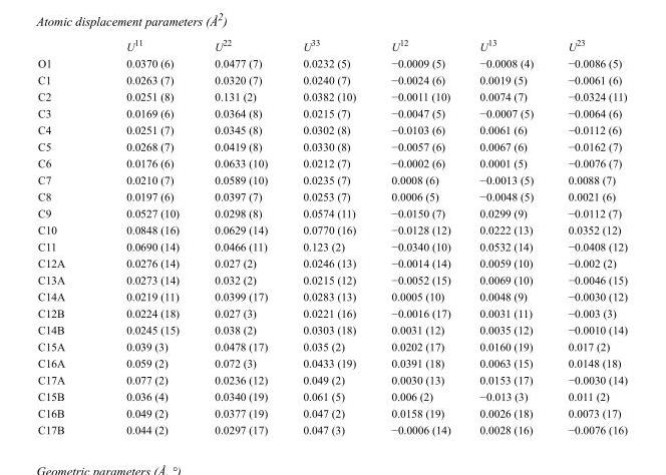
<table><thead><tr><td></td><td>U<sup>11</sup></td><td>U<sup>22</sup></td><td>U<sup>33</sup></td><td>U<sup>12</sup></td><td>U<sup>13</sup></td><td>U<sup>23</sup></td></tr></thead><tbody><tr><td>O1</td><td>0.0370 (6)</td><td>0.0477 (7)</td><td>0.0232 (5)</td><td>−0.0009 (5)</td><td>−0.0008 (4)</td><td>−0.0086 (5)</td></tr><tr><td>C1</td><td>0.0263 (7)</td><td>0.0320 (7)</td><td>0.0240 (7)</td><td>−0.0024 (6)</td><td>0.0019 (5)</td><td>−0.0061 (6)</td></tr><tr><td>C2</td><td>0.0251 (8)</td><td>0.131 (2)</td><td>0.0382 (10)</td><td>−0.0011 (10)</td><td>0.0074 (7)</td><td>−0.0324 (11)</td></tr><tr><td>C3</td><td>0.0169 (6)</td><td>0.0364 (8)</td><td>0.0215 (7)</td><td>−0.0047 (5)</td><td>−0.0007 (5)</td><td>−0.0064 (6)</td></tr><tr><td>C4</td><td>0.0251 (7)</td><td>0.0345 (8)</td><td>0.0302 (8)</td><td>−0.0103 (6)</td><td>0.0061 (6)</td><td>−0.0112 (6)</td></tr><tr><td>C5</td><td>0.0268 (7)</td><td>0.0419 (8)</td><td>0.0330 (8)</td><td>−0.0057 (6)</td><td>0.0067 (6)</td><td>−0.0162 (7)</td></tr><tr><td>C6</td><td>0.0176 (6)</td><td>0.0633 (10)</td><td>0.0212 (7)</td><td>−0.0002 (6)</td><td>0.0001 (5)</td><td>−0.0076 (7)</td></tr><tr><td>C7</td><td>0.0210 (7)</td><td>0.0589 (10)</td><td>0.0235 (7)</td><td>0.0008 (6)</td><td>−0.0013 (5)</td><td>0.0088 (7)</td></tr><tr><td>C8</td><td>0.0197 (6)</td><td>0.0397 (7)</td><td>0.0253 (7)</td><td>0.0006 (5)</td><td>−0.0048 (5)</td><td>0.0021 (6)</td></tr><tr><td>C9</td><td>0.0527 (10)</td><td>0.0298 (8)</td><td>0.0574 (11)</td><td>−0.0150 (7)</td><td>0.0299 (9)</td><td>−0.0112 (7)</td></tr><tr><td>C10</td><td>0.0848 (16)</td><td>0.0629 (14)</td><td>0.0770 (16)</td><td>−0.0128 (12)</td><td>0.0222 (13)</td><td>0.0352 (12)</td></tr><tr><td>C11</td><td>0.0690 (14)</td><td>0.0466 (11)</td><td>0.123 (2)</td><td>−0.0340 (10)</td><td>0.0532 (14)</td><td>−0.0408 (12)</td></tr><tr><td>C12A</td><td>0.0276 (14)</td><td>0.027 (2)</td><td>0.0246 (13)</td><td>−0.0014 (14)</td><td>0.0059 (10)</td><td>−0.002 (2)</td></tr><tr><td>C13A</td><td>0.0273 (14)</td><td>0.032 (2)</td><td>0.0215 (12)</td><td>−0.0052 (15)</td><td>0.0069 (10)</td><td>−0.0046 (15)</td></tr><tr><td>C14A</td><td>0.0219 (11)</td><td>0.0399 (17)</td><td>0.0283 (13)</td><td>0.0005 (10)</td><td>0.0048 (9)</td><td>−0.0030 (12)</td></tr><tr><td>C12B</td><td>0.0224 (18)</td><td>0.027 (3)</td><td>0.0221 (16)</td><td>−0.0016 (17)</td><td>0.0031 (11)</td><td>−0.003 (3)</td></tr><tr><td>C14B</td><td>0.0245 (15)</td><td>0.038 (2)</td><td>0.0303 (18)</td><td>0.0031 (12)</td><td>0.0035 (12)</td><td>−0.0010 (14)</td></tr><tr><td>C15A</td><td>0.039 (3)</td><td>0.0478 (17)</td><td>0.035 (2)</td><td>0.0202 (17)</td><td>0.0160 (19)</td><td>0.017 (2)</td></tr><tr><td>C16A</td><td>0.059 (2)</td><td>0.072 (3)</td><td>0.0433 (19)</td><td>0.0391 (18)</td><td>0.0063 (15)</td><td>0.0148 (18)</td></tr><tr><td>C17A</td><td>0.077 (2)</td><td>0.0236 (12)</td><td>0.049 (2)</td><td>0.0030 (13)</td><td>0.0153 (17)</td><td>−0.0030 (14)</td></tr><tr><td>C15B</td><td>0.036 (4)</td><td>0.0340 (19)</td><td>0.061 (5)</td><td>0.006 (2)</td><td>−0.013 (3)</td><td>0.011 (2)</td></tr><tr><td>C16B</td><td>0.049 (2)</td><td>0.0377 (19)</td><td>0.047 (2)</td><td>0.0158 (19)</td><td>0.0026 (18)</td><td>0.0073 (17)</td></tr><tr><td>C17B</td><td>0.044 (2)</td><td>0.0297 (17)</td><td>0.047 (3)</td><td>−0.0006 (14)</td><td>0.0028 (16)</td><td>−0.0076 (16)</td></tr></tbody></table>